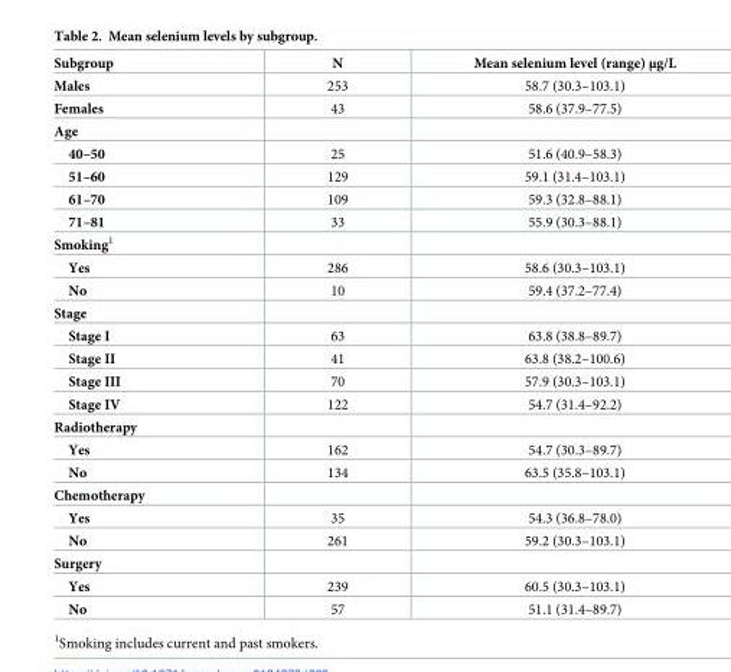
<table><thead><tr><td>Subgroup</td><td>N</td><td>Mean selenium level (range) μg/L</td></tr></thead><tbody><tr><td>Males</td><td>253</td><td>58.7 (30.3–103.1)</td></tr><tr><td>Females</td><td>43</td><td>58.6 (37.9–77.5)</td></tr><tr><td colspan="3">Age</td></tr><tr><td>40–50</td><td>25</td><td>51.6 (40.9–58.3)</td></tr><tr><td>51–60</td><td>129</td><td>59.1 (31.4–103.1)</td></tr><tr><td>61–70</td><td>109</td><td>59.3 (32.8–88.1)</td></tr><tr><td>71–81</td><td>33</td><td>55.9 (30.3–88.1)</td></tr><tr><td colspan="3">Smoking<sup>1</sup></td></tr><tr><td>Yes</td><td>286</td><td>58.6 (30.3–103.1)</td></tr><tr><td>No</td><td>10</td><td>59.4 (37.2–77.4)</td></tr><tr><td colspan="3">Stage</td></tr><tr><td>Stage I</td><td>63</td><td>63.8 (38.8–89.7)</td></tr><tr><td>Stage II</td><td>41</td><td>63.8 (38.2–100.6)</td></tr><tr><td>Stage III</td><td>70</td><td>57.9 (30.3–103.1)</td></tr><tr><td>Stage IV</td><td>122</td><td>54.7 (31.4–92.2)</td></tr><tr><td colspan="3">Radiotherapy</td></tr><tr><td>Yes</td><td>162</td><td>54.7 (30.3–89.7)</td></tr><tr><td>No</td><td>134</td><td>63.5 (35.8–103.1)</td></tr><tr><td colspan="3">Chemotherapy</td></tr><tr><td>Yes</td><td>35</td><td>54.3 (36.8–78.0)</td></tr><tr><td>No</td><td>261</td><td>59.2 (30.3–103.1)</td></tr><tr><td colspan="3">Surgery</td></tr><tr><td>Yes</td><td>239</td><td>60.5 (30.3–103.1)</td></tr><tr><td>No</td><td>57</td><td>51.1 (31.4–89.7)</td></tr></tbody></table>